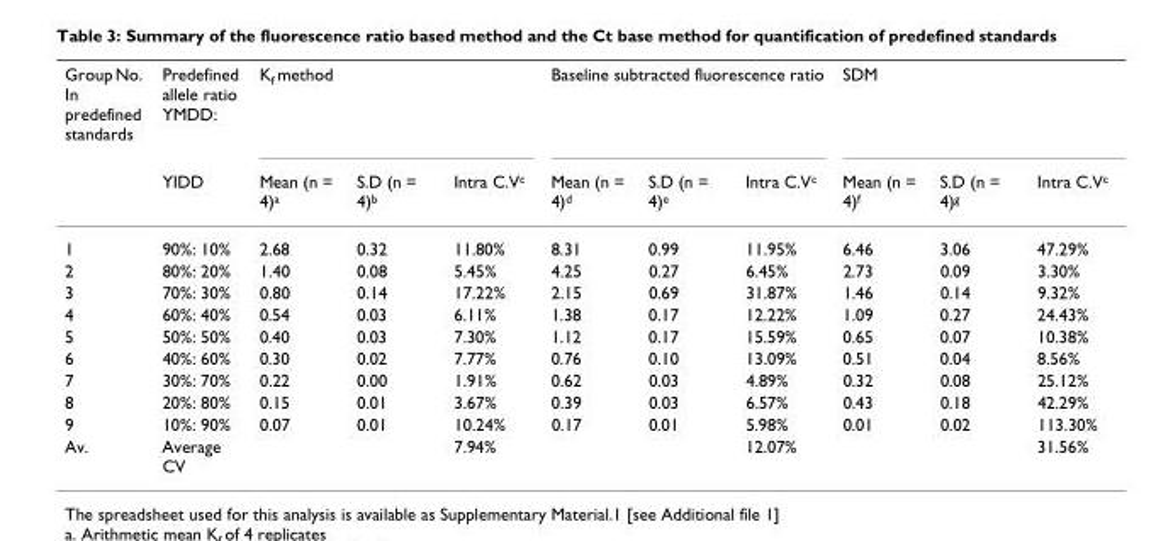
<table><thead><tr><td rowspan="2">Group No. In predefined standards</td><td rowspan="2">Predefined allele ratio YMDD: YIDD</td><td colspan="3">Kf method</td><td colspan="3">Baseline subtracted fluorescence ratio</td><td colspan="3">SDM</td></tr><tr><td>Mean (n = 4)a</td><td>S.D (n = 4)b</td><td>Intra C.Vc</td><td>Mean (n = 4)d</td><td>S.D (n = 4)e</td><td>Intra C.Vc</td><td>Mean (n = 4)f</td><td>S.D (n = 4)g</td><td>Intra C.Vc</td></tr></thead><tbody><tr><td>1</td><td>90%: 10%</td><td>2.68</td><td>0.32</td><td>11.80%</td><td>8.31</td><td>0.99</td><td>11.95%</td><td>6.46</td><td>3.06</td><td>47.29%</td></tr><tr><td>2</td><td>80%: 20%</td><td>1.40</td><td>0.08</td><td>5.45%</td><td>4.25</td><td>0.27</td><td>6.45%</td><td>2.73</td><td>0.09</td><td>3.30%</td></tr><tr><td>3</td><td>70%: 30%</td><td>0.80</td><td>0.14</td><td>17.22%</td><td>2.15</td><td>0.69</td><td>31.87%</td><td>1.46</td><td>0.14</td><td>9.32%</td></tr><tr><td>4</td><td>60%: 40%</td><td>0.54</td><td>0.03</td><td>6.11%</td><td>1.38</td><td>0.17</td><td>12.22%</td><td>1.09</td><td>0.27</td><td>24.43%</td></tr><tr><td>5</td><td>50%: 50%</td><td>0.40</td><td>0.03</td><td>7.30%</td><td>1.12</td><td>0.17</td><td>15.59%</td><td>0.65</td><td>0.07</td><td>10.38%</td></tr><tr><td>6</td><td>40%: 60%</td><td>0.30</td><td>0.02</td><td>7.77%</td><td>0.76</td><td>0.10</td><td>13.09%</td><td>0.51</td><td>0.04</td><td>8.56%</td></tr><tr><td>7</td><td>30%: 70%</td><td>0.22</td><td>0.00</td><td>1.91%</td><td>0.62</td><td>0.03</td><td>4.89%</td><td>0.32</td><td>0.08</td><td>25.12%</td></tr><tr><td>8</td><td>20%: 80%</td><td>0.15</td><td>0.01</td><td>3.67%</td><td>0.39</td><td>0.03</td><td>6.57%</td><td>0.43</td><td>0.18</td><td>42.29%</td></tr><tr><td>9</td><td>10%: 90%</td><td>0.07</td><td>0.01</td><td>10.24%</td><td>0.17</td><td>0.01</td><td>5.98%</td><td>0.01</td><td>0.02</td><td>113.30%</td></tr><tr><td>Av.</td><td>Average CV</td><td></td><td></td><td>7.94%</td><td></td><td></td><td>12.07%</td><td></td><td></td><td>31.56%</td></tr></tbody></table>